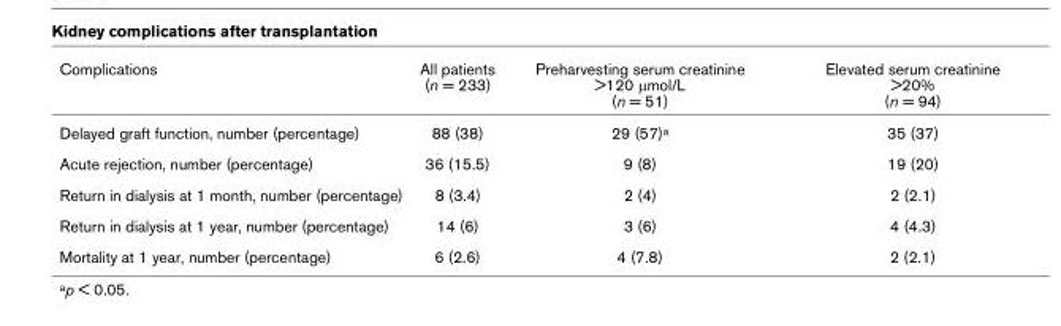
<table><thead><tr><td>Complications</td><td>All patients (n = 233)</td><td>Preharvesting serum creatinine &gt;120 μmol/L (n = 51)</td><td>Elevated serum creatinine &gt;20% (n = 94)</td></tr></thead><tbody><tr><td>Delayed graft function, number (percentage)</td><td>88 (38)</td><td>29 (57)<sup>a</sup></td><td>35 (37)</td></tr><tr><td>Acute rejection, number (percentage)</td><td>36 (15.5)</td><td>9 (8)</td><td>19 (20)</td></tr><tr><td>Return in dialysis at 1 month, number (percentage)</td><td>8 (3.4)</td><td>2 (4)</td><td>2 (2.1)</td></tr><tr><td>Return in dialysis at 1 year, number (percentage)</td><td>14 (6)</td><td>3 (6)</td><td>4 (4.3)</td></tr><tr><td>Mortality at 1 year, number (percentage)</td><td>6 (2.6)</td><td>4 (7.8)</td><td>2 (2.1)</td></tr></tbody></table>